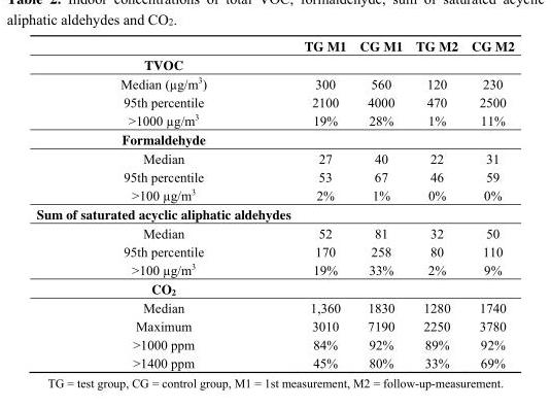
<table><thead><tr><td></td><td>TG M1</td><td>CG M1</td><td>TG M2</td><td>CG M2</td></tr></thead><tbody><tr><td colspan="5">TVOC</td></tr><tr><td>Median (µg/m<sup>3</sup>)</td><td>300</td><td>560</td><td>120</td><td>230</td></tr><tr><td>95th percentile</td><td>2100</td><td>4000</td><td>470</td><td>2500</td></tr><tr><td>&gt;1000 µg/m<sup>3</sup></td><td>19%</td><td>28%</td><td>1%</td><td>11%</td></tr><tr><td colspan="5">Formaldehyde</td></tr><tr><td>Median</td><td>27</td><td>40</td><td>22</td><td>31</td></tr><tr><td>95th percentile</td><td>53</td><td>67</td><td>46</td><td>59</td></tr><tr><td>&gt;100 µg/m<sup>3</sup></td><td>2%</td><td>1%</td><td>0%</td><td>0%</td></tr><tr><td colspan="5">Sum of saturated acyclic aliphatic aldehydes</td></tr><tr><td>Median</td><td>52</td><td>81</td><td>32</td><td>50</td></tr><tr><td>95th percentile</td><td>170</td><td>258</td><td>80</td><td>110</td></tr><tr><td>&gt;100 µg/m<sup>3</sup></td><td>19%</td><td>33%</td><td>2%</td><td>9%</td></tr><tr><td colspan="5">CO<sub>2</sub></td></tr><tr><td>Median</td><td>1,360</td><td>1830</td><td>1280</td><td>1740</td></tr><tr><td>Maximum</td><td>3010</td><td>7190</td><td>2250</td><td>3780</td></tr><tr><td>&gt;1000 ppm</td><td>84%</td><td>92%</td><td>89%</td><td>92%</td></tr><tr><td>&gt;1400 ppm</td><td>45%</td><td>80%</td><td>33%</td><td>69%</td></tr></tbody></table>